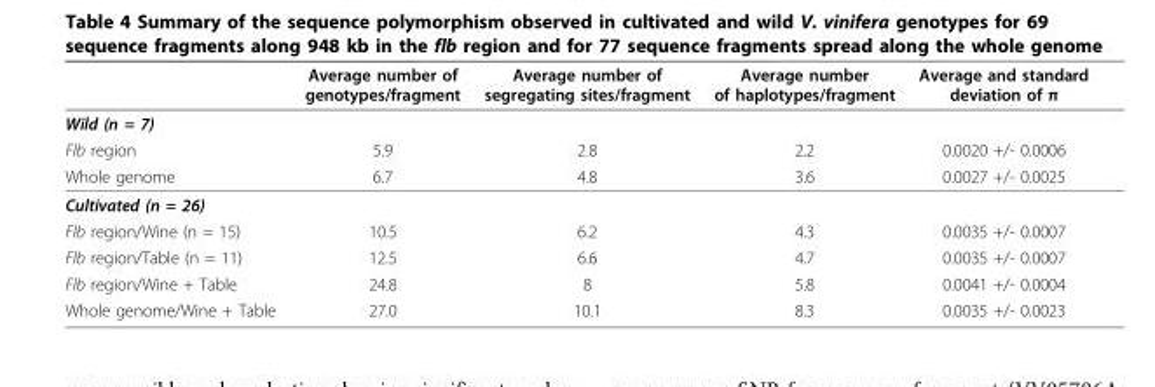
<table><thead><tr><td></td><td>Average number of genotypes/fragment</td><td>Average number of segregating sites/fragment</td><td>Average number of haplotypes/fragment</td><td>Average and standard deviation of π</td></tr></thead><tbody><tr><td colspan="5">Wild (n = 7)</td></tr><tr><td>Flb region</td><td>5.9</td><td>2.8</td><td>2.2</td><td>0.0020 +/- 0.0006</td></tr><tr><td>Whole genome</td><td>6.7</td><td>4.8</td><td>3.6</td><td>0.0027 +/- 0.0025</td></tr><tr><td colspan="5">Cultivated (n = 26)</td></tr><tr><td>Flb region/Wine (n = 15)</td><td>10.5</td><td>6.2</td><td>4.3</td><td>0.0035 +/- 0.0007</td></tr><tr><td>Flb region/Table (n = 11)</td><td>12.5</td><td>6.6</td><td>4.7</td><td>0.0035 +/- 0.0007</td></tr><tr><td>Flb region/Wine + Table</td><td>24.8</td><td>8</td><td>5.8</td><td>0.0041 +/- 0.0004</td></tr><tr><td>Whole genome/Wine + Table</td><td>27.0</td><td>10.1</td><td>8.3</td><td>0.0035 +/- 0.0023</td></tr></tbody></table>